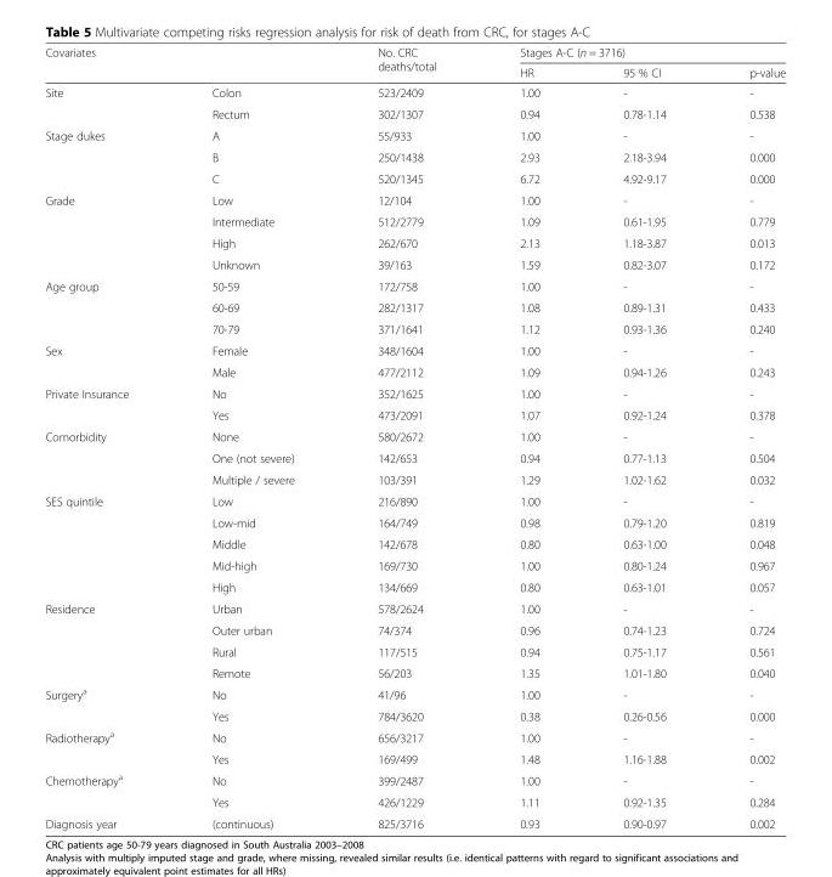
<table><thead><tr><td rowspan="2">Covariates</td><td rowspan="2"></td><td rowspan="2">No. CRC deaths/total</td><td colspan="3">Stages A-C (n = 3716)</td></tr><tr><td>HR</td><td>95 % CI</td><td>p-value</td></tr></thead><tbody><tr><td rowspan="2">Site</td><td>Colon</td><td>523/2409</td><td>1.00</td><td>-</td><td>-</td></tr><tr><td>Rectum</td><td>302/1307</td><td>0.94</td><td>0.78-1.14</td><td>0.538</td></tr><tr><td rowspan="3">Stage dukes</td><td>A</td><td>55/933</td><td>1.00</td><td>-</td><td>-</td></tr><tr><td>B</td><td>250/1438</td><td>2.93</td><td>2.18-3.94</td><td>0.000</td></tr><tr><td>C</td><td>520/1345</td><td>6.72</td><td>4.92-9.17</td><td>0.000</td></tr><tr><td rowspan="4">Grade</td><td>Low</td><td>12/104</td><td>1.00</td><td>-</td><td>-</td></tr><tr><td>Intermediate</td><td>512/2779</td><td>1.09</td><td>0.61-1.95</td><td>0.779</td></tr><tr><td>High</td><td>262/670</td><td>2.13</td><td>1.18-3.87</td><td>0.013</td></tr><tr><td>Unknown</td><td>39/163</td><td>1.59</td><td>0.82-3.07</td><td>0.172</td></tr><tr><td rowspan="3">Age group</td><td>50-59</td><td>172/758</td><td>1.00</td><td>-</td><td>-</td></tr><tr><td>60-69</td><td>282/1317</td><td>1.08</td><td>0.89-1.31</td><td>0.433</td></tr><tr><td>70-79</td><td>371/1641</td><td>1.12</td><td>0.93-1.36</td><td>0.240</td></tr><tr><td rowspan="2">Sex</td><td>Female</td><td>348/1604</td><td>1.00</td><td>-</td><td>-</td></tr><tr><td>Male</td><td>477/2112</td><td>1.09</td><td>0.94-1.26</td><td>0.243</td></tr><tr><td rowspan="2">Private Insurance</td><td>No</td><td>352/1625</td><td>1.00</td><td>-</td><td>-</td></tr><tr><td>Yes</td><td>473/2091</td><td>1.07</td><td>0.92-1.24</td><td>0.378</td></tr><tr><td rowspan="3">Comorbidity</td><td>None</td><td>580/2672</td><td>1.00</td><td>-</td><td>-</td></tr><tr><td>One (not severe)</td><td>142/653</td><td>0.94</td><td>0.77-1.13</td><td>0.504</td></tr><tr><td>Multiple / severe</td><td>103/391</td><td>1.29</td><td>1.02-1.62</td><td>0.032</td></tr><tr><td rowspan="5">SES quintile</td><td>Low</td><td>216/890</td><td>1.00</td><td>-</td><td>-</td></tr><tr><td>Low-mid</td><td>164/749</td><td>0.98</td><td>0.79-1.20</td><td>0.819</td></tr><tr><td>Middle</td><td>142/678</td><td>0.80</td><td>0.63-1.00</td><td>0.048</td></tr><tr><td>Mid-high</td><td>169/730</td><td>1.00</td><td>0.80-1.24</td><td>0.967</td></tr><tr><td>High</td><td>134/669</td><td>0.80</td><td>0.63-1.01</td><td>0.057</td></tr><tr><td rowspan="4">Residence</td><td>Urban</td><td>578/2624</td><td>1.00</td><td>-</td><td>-</td></tr><tr><td>Outer urban</td><td>74/374</td><td>0.96</td><td>0.74-1.23</td><td>0.724</td></tr><tr><td>Rural</td><td>117/515</td><td>0.94</td><td>0.75-1.17</td><td>0.561</td></tr><tr><td>Remote</td><td>56/203</td><td>1.35</td><td>1.01-1.80</td><td>0.040</td></tr><tr><td rowspan="2">Surgery<sup>a</sup></td><td>No</td><td>41/96</td><td>1.00</td><td>-</td><td>-</td></tr><tr><td>Yes</td><td>784/3620</td><td>0.38</td><td>0.26-0.56</td><td>0.000</td></tr><tr><td rowspan="2">Radiotherapy<sup>a</sup></td><td>No</td><td>656/3217</td><td>1.00</td><td>-</td><td>-</td></tr><tr><td>Yes</td><td>169/499</td><td>1.48</td><td>1.16-1.88</td><td>0.002</td></tr><tr><td rowspan="2">Chemotherapy<sup>a</sup></td><td>No</td><td>399/2487</td><td>1.00</td><td>-</td><td>-</td></tr><tr><td>Yes</td><td>426/1229</td><td>1.11</td><td>0.92-1.35</td><td>0.284</td></tr><tr><td>Diagnosis year</td><td>(continuous)</td><td>825/3716</td><td>0.93</td><td>0.90-0.97</td><td>0.002</td></tr></tbody></table>